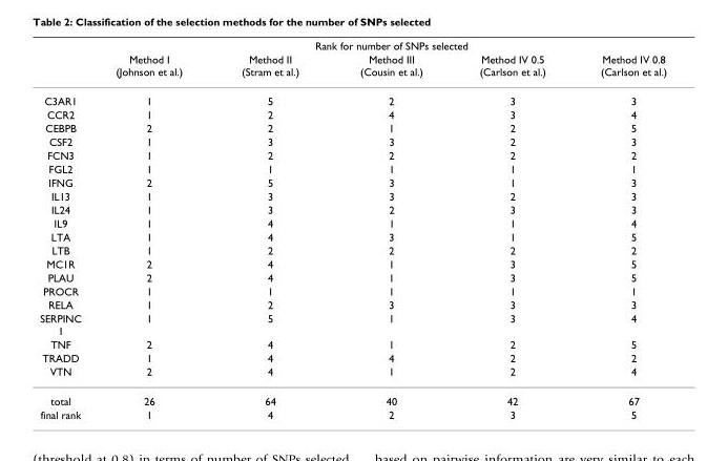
<table><thead><tr><td rowspan="2"></td><td colspan="5">Rank for number of SNPs selected</td></tr><tr><td>Method I (Johnson et al.)</td><td>Method II (Stram et al.)</td><td>Method III (Cousin et al.)</td><td>Method IV 0.5 (Carlson et al.)</td><td>Method IV 0.8 (Carlson et al.)</td></tr></thead><tbody><tr><td>C3AR1</td><td>1</td><td>5</td><td>2</td><td>3</td><td>3</td></tr><tr><td>CCR2</td><td>1</td><td>2</td><td>4</td><td>3</td><td>4</td></tr><tr><td>CEBPB</td><td>2</td><td>2</td><td>1</td><td>2</td><td>5</td></tr><tr><td>CSF2</td><td>1</td><td>3</td><td>3</td><td>2</td><td>3</td></tr><tr><td>FCN3</td><td>1</td><td>2</td><td>2</td><td>2</td><td>2</td></tr><tr><td>FGL2</td><td>1</td><td>1</td><td>1</td><td>1</td><td>1</td></tr><tr><td>IFNG</td><td>2</td><td>5</td><td>3</td><td>1</td><td>3</td></tr><tr><td>IL13</td><td>1</td><td>3</td><td>3</td><td>2</td><td>3</td></tr><tr><td>IL24</td><td>1</td><td>3</td><td>2</td><td>3</td><td>3</td></tr><tr><td>IL9</td><td>1</td><td>4</td><td>1</td><td>1</td><td>4</td></tr><tr><td>LTA</td><td>1</td><td>4</td><td>3</td><td>1</td><td>5</td></tr><tr><td>LTB</td><td>1</td><td>2</td><td>2</td><td>2</td><td>2</td></tr><tr><td>MC1R</td><td>2</td><td>4</td><td>1</td><td>3</td><td>5</td></tr><tr><td>PLAU</td><td>2</td><td>4</td><td>1</td><td>3</td><td>5</td></tr><tr><td>PROCR</td><td>1</td><td>1</td><td>1</td><td>1</td><td>1</td></tr><tr><td>RELA</td><td>1</td><td>2</td><td>3</td><td>3</td><td>3</td></tr><tr><td>SERPINC 1</td><td>1</td><td>5</td><td>1</td><td>3</td><td>4</td></tr><tr><td>TNF</td><td>2</td><td>4</td><td>1</td><td>2</td><td>5</td></tr><tr><td>TRADD</td><td>1</td><td>4</td><td>4</td><td>2</td><td>2</td></tr><tr><td>VTN</td><td>2</td><td>4</td><td>1</td><td>2</td><td>4</td></tr><tr><td>total</td><td>26</td><td>64</td><td>40</td><td>42</td><td>67</td></tr><tr><td>final rank</td><td>1</td><td>4</td><td>2</td><td>3</td><td>5</td></tr></tbody></table>